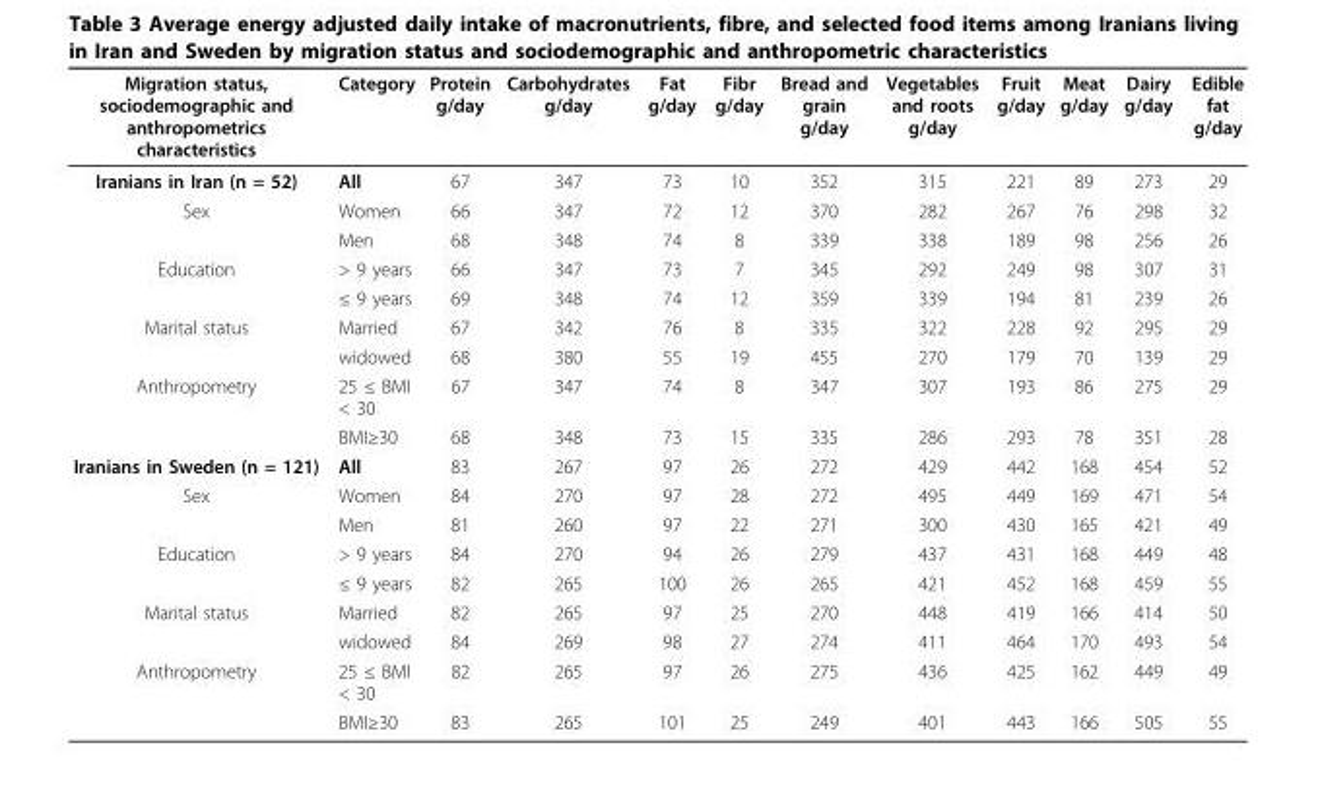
<table><thead><tr><td>Migration status, sociodemographic and anthropometrics characteristics</td><td>Category</td><td>Protein g/day</td><td>Carbohydrates g/day</td><td>Fat g/day</td><td>Fibr g/day</td><td>Bread and grain g/day</td><td>Vegetables and roots g/day</td><td>Fruit g/day</td><td>Meat g/day</td><td>Dairy g/day</td><td>Edible fat g/day</td></tr></thead><tbody><tr><td>Iranians in Iran (n = 52)</td><td>All</td><td>67</td><td>347</td><td>73</td><td>10</td><td>352</td><td>315</td><td>221</td><td>89</td><td>273</td><td>29</td></tr><tr><td rowspan="2">Sex</td><td>Women</td><td>66</td><td>347</td><td>72</td><td>12</td><td>370</td><td>282</td><td>267</td><td>76</td><td>298</td><td>32</td></tr><tr><td>Men</td><td>68</td><td>348</td><td>74</td><td>8</td><td>339</td><td>338</td><td>189</td><td>98</td><td>256</td><td>26</td></tr><tr><td rowspan="2">Education</td><td>&gt; 9 years</td><td>66</td><td>347</td><td>73</td><td>7</td><td>345</td><td>292</td><td>249</td><td>98</td><td>307</td><td>31</td></tr><tr><td>≤ 9 years</td><td>69</td><td>348</td><td>74</td><td>12</td><td>359</td><td>339</td><td>194</td><td>81</td><td>239</td><td>26</td></tr><tr><td rowspan="2">Marital status</td><td>Married</td><td>67</td><td>342</td><td>76</td><td>8</td><td>335</td><td>322</td><td>228</td><td>92</td><td>295</td><td>29</td></tr><tr><td>widowed</td><td>68</td><td>380</td><td>55</td><td>19</td><td>455</td><td>270</td><td>179</td><td>70</td><td>139</td><td>29</td></tr><tr><td rowspan="2">Anthropometry</td><td>25 ≤ BMI &lt; 30</td><td>67</td><td>347</td><td>74</td><td>8</td><td>347</td><td>307</td><td>193</td><td>86</td><td>275</td><td>29</td></tr><tr><td>BMI≥30</td><td>68</td><td>348</td><td>73</td><td>15</td><td>335</td><td>286</td><td>293</td><td>78</td><td>351</td><td>28</td></tr><tr><td>Iranians in Sweden (n = 121)</td><td>All</td><td>83</td><td>267</td><td>97</td><td>26</td><td>272</td><td>429</td><td>442</td><td>168</td><td>454</td><td>52</td></tr><tr><td rowspan="2">Sex</td><td>Women</td><td>84</td><td>270</td><td>97</td><td>28</td><td>272</td><td>495</td><td>449</td><td>169</td><td>471</td><td>54</td></tr><tr><td>Men</td><td>81</td><td>260</td><td>97</td><td>22</td><td>271</td><td>300</td><td>430</td><td>165</td><td>421</td><td>49</td></tr><tr><td rowspan="2">Education</td><td>&gt; 9 years</td><td>84</td><td>270</td><td>94</td><td>26</td><td>279</td><td>437</td><td>431</td><td>168</td><td>449</td><td>48</td></tr><tr><td>≤ 9 years</td><td>82</td><td>265</td><td>100</td><td>26</td><td>265</td><td>421</td><td>452</td><td>168</td><td>459</td><td>55</td></tr><tr><td rowspan="2">Marital status</td><td>Married</td><td>82</td><td>265</td><td>97</td><td>25</td><td>270</td><td>448</td><td>419</td><td>166</td><td>414</td><td>50</td></tr><tr><td>widowed</td><td>84</td><td>269</td><td>98</td><td>27</td><td>274</td><td>411</td><td>464</td><td>170</td><td>493</td><td>54</td></tr><tr><td rowspan="2">Anthropometry</td><td>25 ≤ BMI &lt; 30</td><td>82</td><td>265</td><td>97</td><td>26</td><td>275</td><td>436</td><td>425</td><td>162</td><td>449</td><td>49</td></tr><tr><td>BMI≥30</td><td>83</td><td>265</td><td>101</td><td>25</td><td>249</td><td>401</td><td>443</td><td>166</td><td>505</td><td>55</td></tr></tbody></table>